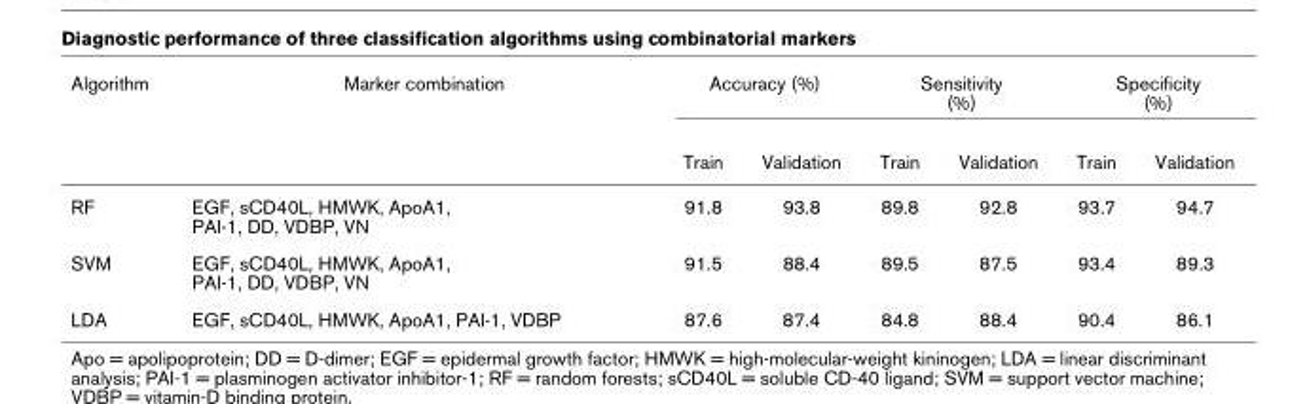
<table><thead><tr><td rowspan="2">Algorithm</td><td rowspan="2">Marker combination</td><td colspan="2">Accuracy (%)</td><td colspan="2">Sensitivity (%)</td><td colspan="2">Specificity (%)</td></tr><tr><td>Train</td><td>Validation</td><td>Train</td><td>Validation</td><td>Train</td><td>Validation</td></tr></thead><tbody><tr><td>RF</td><td>EGF, sCD40L, HMWK, ApoA1, PAI-1, DD, VDBP, VN</td><td>91.8</td><td>93.8</td><td>89.8</td><td>92.8</td><td>93.7</td><td>94.7</td></tr><tr><td>SVM</td><td>EGF, sCD40L, HMWK, ApoA1, PAI-1, DD, VDBP, VN</td><td>91.5</td><td>88.4</td><td>89.5</td><td>87.5</td><td>93.4</td><td>89.3</td></tr><tr><td>LDA</td><td>EGF, sCD40L, HMWK, ApoA1, PAI-1, VDBP</td><td>87.6</td><td>87.4</td><td>84.8</td><td>88.4</td><td>90.4</td><td>86.1</td></tr></tbody></table>